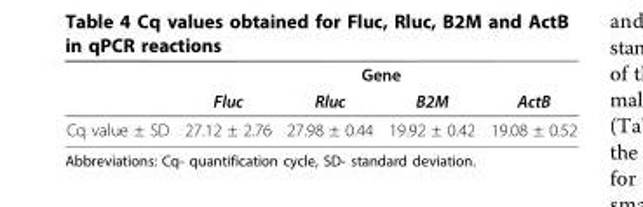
<table><thead><tr><td rowspan="2"></td><td colspan="4">Gene</td></tr><tr><td>Fluc</td><td>Rluc</td><td>B2M</td><td>ActB</td></tr></thead><tbody><tr><td>Cq value ± SD</td><td>27.12 ± 2.76</td><td>27.98 ± 0.44</td><td>19.92 ± 0.42</td><td>19.08 ± 0.52</td></tr></tbody></table>